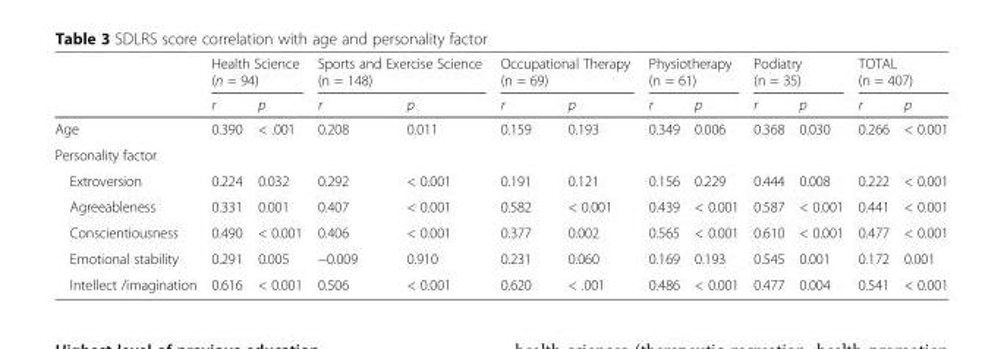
<table><thead><tr><td rowspan="2"></td><td colspan="2">Health Science (n = 94)</td><td colspan="2">Sports and Exercise Science (n = 148)</td><td colspan="2">Occupational Therapy (n = 69)</td><td colspan="2">Physiotherapy (n = 61)</td><td colspan="2">Podiatry (n = 35)</td><td colspan="2">TOTAL (n = 407)</td></tr><tr><td>r</td><td>p</td><td>r</td><td>p</td><td>r</td><td>p</td><td>r</td><td>p</td><td>r</td><td>p</td><td>r</td><td>p</td></tr></thead><tbody><tr><td>Age</td><td>0.390</td><td>&lt; .001</td><td>0.208</td><td>0.011</td><td>0.159</td><td>0.193</td><td>0.349</td><td>0.006</td><td>0.368</td><td>0.030</td><td>0.266</td><td>&lt; 0.001</td></tr><tr><td colspan="13">Personality factor</td></tr><tr><td>Extroversion</td><td>0.224</td><td>0.032</td><td>0.292</td><td>&lt; 0.001</td><td>0.191</td><td>0.121</td><td>0.156</td><td>0.229</td><td>0.444</td><td>0.008</td><td>0.222</td><td>&lt; 0.001</td></tr><tr><td>Agreeableness</td><td>0.331</td><td>0.001</td><td>0.407</td><td>&lt; 0.001</td><td>0.582</td><td>&lt; 0.001</td><td>0.439</td><td>&lt; 0.001</td><td>0.587</td><td>&lt; 0.001</td><td>0.441</td><td>&lt; 0.001</td></tr><tr><td>Conscientiousness</td><td>0.490</td><td>&lt; 0.001</td><td>0.406</td><td>&lt; 0.001</td><td>0.377</td><td>0.002</td><td>0.565</td><td>&lt; 0.001</td><td>0.610</td><td>&lt; 0.001</td><td>0.477</td><td>&lt; 0.001</td></tr><tr><td>Emotional stability</td><td>0.291</td><td>0.005</td><td>−0.009</td><td>0.910</td><td>0.231</td><td>0.060</td><td>0.169</td><td>0.193</td><td>0.545</td><td>0.001</td><td>0.172</td><td>0.001</td></tr><tr><td>Intellect /imagination</td><td>0.616</td><td>&lt; 0.001</td><td>0.506</td><td>&lt; 0.001</td><td>0.620</td><td>&lt; .001</td><td>0.486</td><td>&lt; 0.001</td><td>0.477</td><td>0.004</td><td>0.541</td><td>&lt; 0.001</td></tr></tbody></table>